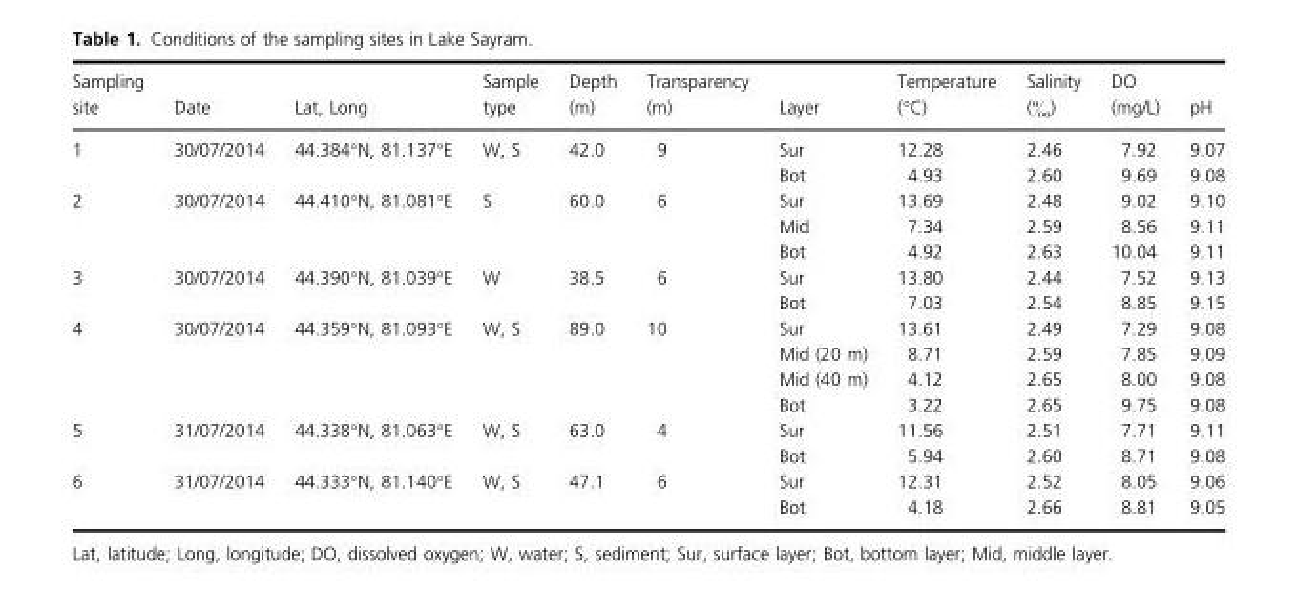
<table><thead><tr><td>Sampling site</td><td>Date</td><td>Lat, Long</td><td>Sample type</td><td>Depth (m)</td><td>Transparency (m)</td><td>Layer</td><td>Temperature (°C)</td><td>Salinity (‰)</td><td>DO (mg/L)</td><td>pH</td></tr></thead><tbody><tr><td rowspan="2">1</td><td rowspan="2">30/07/2014</td><td rowspan="2">44.384°N, 81.137°E</td><td rowspan="2">W, S</td><td rowspan="2">42.0</td><td rowspan="2">9</td><td>Sur</td><td>12.28</td><td>2.46</td><td>7.92</td><td>9.07</td></tr><tr><td>Bot</td><td>4.93</td><td>2.60</td><td>9.69</td><td>9.08</td></tr><tr><td rowspan="3">2</td><td rowspan="3">30/07/2014</td><td rowspan="3">44.410°N, 81.081°E</td><td rowspan="3">S</td><td rowspan="3">60.0</td><td rowspan="3">6</td><td>Sur</td><td>13.69</td><td>2.48</td><td>9.02</td><td>9.10</td></tr><tr><td>Mid</td><td>7.34</td><td>2.59</td><td>8.56</td><td>9.11</td></tr><tr><td>Bot</td><td>4.92</td><td>2.63</td><td>10.04</td><td>9.11</td></tr><tr><td rowspan="2">3</td><td rowspan="2">30/07/2014</td><td rowspan="2">44.390°N, 81.039°E</td><td rowspan="2">W</td><td rowspan="2">38.5</td><td rowspan="2">6</td><td>Sur</td><td>13.80</td><td>2.44</td><td>7.52</td><td>9.13</td></tr><tr><td>Bot</td><td>7.03</td><td>2.54</td><td>8.85</td><td>9.15</td></tr><tr><td rowspan="4">4</td><td rowspan="4">30/07/2014</td><td rowspan="4">44.359°N, 81.093°E</td><td rowspan="4">W, S</td><td rowspan="4">89.0</td><td rowspan="4">10</td><td>Sur</td><td>13.61</td><td>2.49</td><td>7.29</td><td>9.08</td></tr><tr><td>Mid (20 m)</td><td>8.71</td><td>2.59</td><td>7.85</td><td>9.09</td></tr><tr><td>Mid (40 m)</td><td>4.12</td><td>2.65</td><td>8.00</td><td>9.08</td></tr><tr><td>Bot</td><td>3.22</td><td>2.65</td><td>9.75</td><td>9.08</td></tr><tr><td rowspan="2">5</td><td rowspan="2">31/07/2014</td><td rowspan="2">44.338°N, 81.063°E</td><td rowspan="2">W, S</td><td rowspan="2">63.0</td><td rowspan="2">4</td><td>Sur</td><td>11.56</td><td>2.51</td><td>7.71</td><td>9.11</td></tr><tr><td>Bot</td><td>5.94</td><td>2.60</td><td>8.71</td><td>9.08</td></tr><tr><td rowspan="2">6</td><td rowspan="2">31/07/2014</td><td rowspan="2">44.333°N, 81.140°E</td><td rowspan="2">W, S</td><td rowspan="2">47.1</td><td rowspan="2">6</td><td>Sur</td><td>12.31</td><td>2.52</td><td>8.05</td><td>9.06</td></tr><tr><td>Bot</td><td>4.18</td><td>2.66</td><td>8.81</td><td>9.05</td></tr></tbody></table>